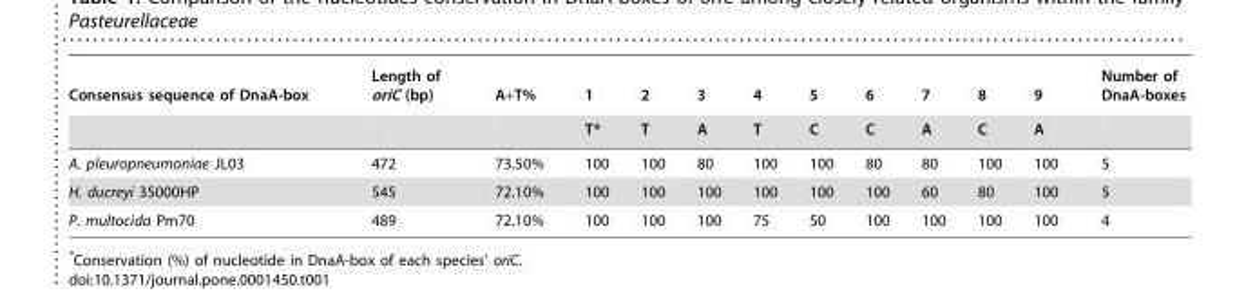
<table><thead><tr><td rowspan="2">Consensus sequence of DnaA-box</td><td rowspan="2">Length of oriC (bp)</td><td rowspan="2">A+T%</td><td rowspan="2">1 T*</td><td rowspan="2">2 T</td><td rowspan="2">3 A</td><td rowspan="2">4 T</td><td rowspan="2">5 C</td><td rowspan="2">6 C</td><td rowspan="2">7 A</td><td rowspan="2">8 C</td><td rowspan="2">9 A</td><td rowspan="2">Number of DnaA-boxes</td></tr><tr></tr></thead><tbody><tr><td>A. pleuropneumoniae JL03</td><td>472</td><td>73.50%</td><td>100</td><td>100</td><td>80</td><td>100</td><td>100</td><td>80</td><td>80</td><td>100</td><td>100</td><td>5</td></tr><tr><td>H. ducreyi 35000HP</td><td>545</td><td>72.10%</td><td>100</td><td>100</td><td>100</td><td>100</td><td>100</td><td>100</td><td>60</td><td>80</td><td>100</td><td>5</td></tr><tr><td>P. multocida Pm70</td><td>489</td><td>72.10%</td><td>100</td><td>100</td><td>100</td><td>75</td><td>50</td><td>100</td><td>100</td><td>100</td><td>100</td><td>4</td></tr></tbody></table>